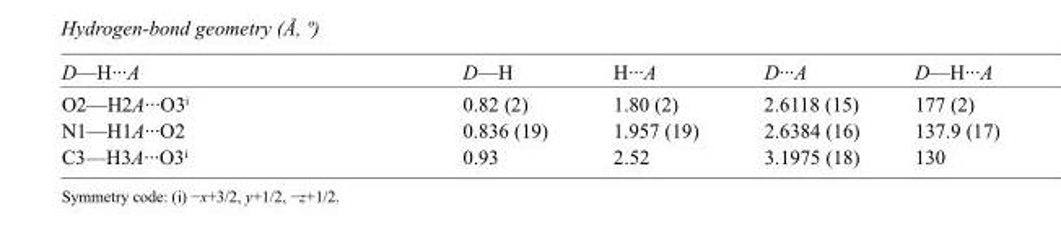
<table><tbody><tr><td>D—H···A</td><td>D—H</td><td>H···A</td><td>D···A</td><td>D—H···A</td></tr><tr><td>O2—H2A···O3<sup>i</sup></td><td>0.82 (2)</td><td>1.80 (2)</td><td>2.6118 (15)</td><td>177 (2)</td></tr><tr><td>N1—H1A···O2</td><td>0.836 (19)</td><td>1.957 (19)</td><td>2.6384 (16)</td><td>137.9 (17)</td></tr><tr><td>C3—H3A···O3<sup>i</sup></td><td>0.93</td><td>2.52</td><td>3.1975 (18)</td><td>130</td></tr></tbody></table>